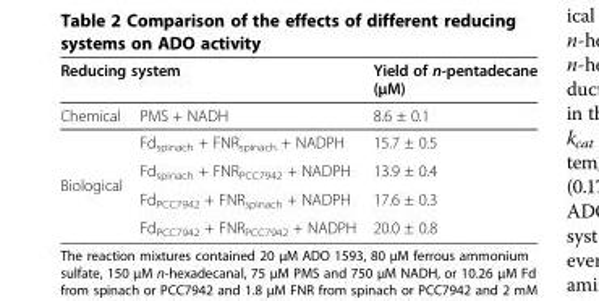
<table><thead><tr><td colspan="2">Reducing system</td><td rowspan="2">Yield of n-pentadecane (μM) 8.6 ± 0.1</td></tr><tr><td>Chemical</td><td>PMS + NADH</td></tr></thead><tbody><tr><td rowspan="4">Biological</td><td>Fd<sub>spinach</sub> + FNR<sub>spinach</sub> + NADPH</td><td>15.7 ± 0.5</td></tr><tr><td>Fd<sub>spinach</sub> + FNR<sub>PCC7942</sub> + NADPH</td><td>13.9 ± 0.4</td></tr><tr><td>Fd<sub>PCC7942</sub> + FNR<sub>spinach</sub> + NADPH</td><td>17.6 ± 0.3</td></tr><tr><td>Fd<sub>PCC7942</sub> + FNR<sub>PCC7942</sub> + NADPH</td><td>20.0 ± 0.8</td></tr></tbody></table>